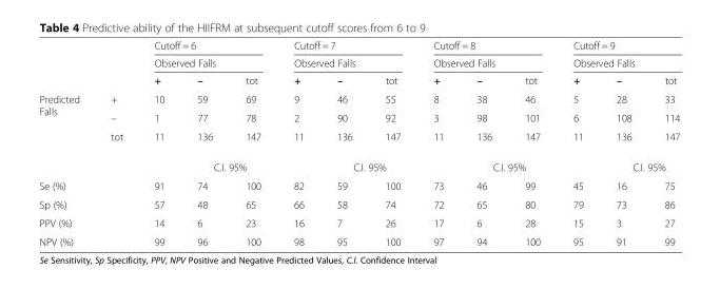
<table><thead><tr><td rowspan="3"></td><td rowspan="3"></td><td rowspan="2" colspan="3">Cutoff = 6 Observed Falls</td><td rowspan="2" colspan="3">Cutoff = 7 Observed Falls</td><td rowspan="2" colspan="3">Cutoff = 8 Observed Falls</td><td rowspan="2" colspan="3">Cutoff = 9 Observed Falls</td></tr><tr></tr><tr><td>+</td><td>–</td><td>tot</td><td>+</td><td>–</td><td>tot</td><td>+</td><td>–</td><td>tot</td><td>+</td><td>–</td><td>tot</td></tr></thead><tbody><tr><td rowspan="4">Predicted Falls</td><td>+</td><td>10</td><td>59</td><td>69</td><td>9</td><td>46</td><td>55</td><td>8</td><td>38</td><td>46</td><td>5</td><td>28</td><td>33</td></tr><tr><td>–</td><td>1</td><td>77</td><td>78</td><td>2</td><td>90</td><td>92</td><td>3</td><td>98</td><td>101</td><td>6</td><td>108</td><td>114</td></tr><tr><td>tot</td><td>11</td><td>136</td><td>147</td><td>11</td><td>136</td><td>147</td><td>11</td><td>136</td><td>147</td><td>11</td><td>136</td><td>147</td></tr><tr><td></td><td></td><td colspan="2">C.I. 95%</td><td></td><td colspan="2">C.I. 95%</td><td></td><td colspan="2">C.I. 95%</td><td></td><td colspan="2">C.I. 95%</td></tr><tr><td colspan="2">Se (%)</td><td>91</td><td>74</td><td>100</td><td>82</td><td>59</td><td>100</td><td>73</td><td>46</td><td>99</td><td>45</td><td>16</td><td>75</td></tr><tr><td colspan="2">Sp (%)</td><td>57</td><td>48</td><td>65</td><td>66</td><td>58</td><td>74</td><td>72</td><td>65</td><td>80</td><td>79</td><td>73</td><td>86</td></tr><tr><td colspan="2">PPV (%)</td><td>14</td><td>6</td><td>23</td><td>16</td><td>7</td><td>26</td><td>17</td><td>6</td><td>28</td><td>15</td><td>3</td><td>27</td></tr><tr><td colspan="2">NPV (%)</td><td>99</td><td>96</td><td>100</td><td>98</td><td>95</td><td>100</td><td>97</td><td>94</td><td>100</td><td>95</td><td>91</td><td>99</td></tr></tbody></table>